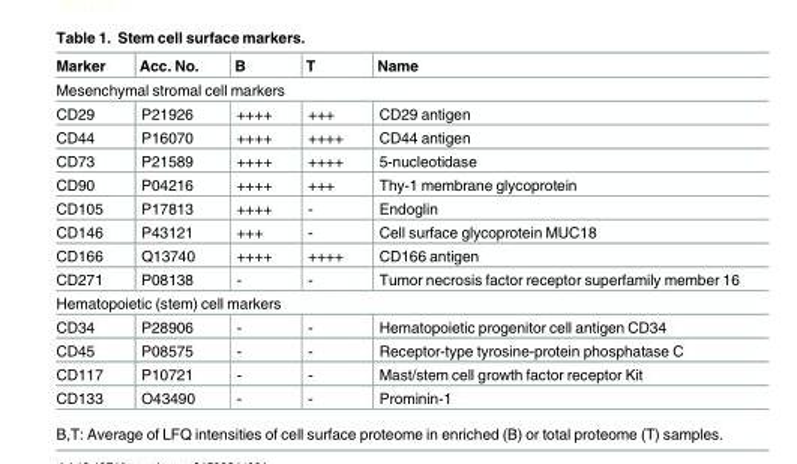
<table><thead><tr><td>Marker</td><td>Acc. No.</td><td>B</td><td>T</td><td>Name</td></tr></thead><tbody><tr><td colspan="5">Mesenchymal stromal cell markers</td></tr><tr><td>CD29</td><td>P21926</td><td>++++</td><td>+++</td><td>CD29 antigen</td></tr><tr><td>CD44</td><td>P16070</td><td>++++</td><td>++++</td><td>CD44 antigen</td></tr><tr><td>CD73</td><td>P21589</td><td>++++</td><td>++++</td><td>5-nucleotidase</td></tr><tr><td>CD90</td><td>P04216</td><td>++++</td><td>+++</td><td>Thy-1 membrane glycoprotein</td></tr><tr><td>CD105</td><td>P17813</td><td>++++</td><td>-</td><td>Endoglin</td></tr><tr><td>CD146</td><td>P43121</td><td>+++</td><td>-</td><td>Cell surface glycoprotein MUC18</td></tr><tr><td>CD166</td><td>Q13740</td><td>++++</td><td>++++</td><td>CD166 antigen</td></tr><tr><td>CD271</td><td>P08138</td><td>-</td><td>-</td><td>Tumor necrosis factor receptor superfamily member 16</td></tr><tr><td colspan="5">Hematopoietic (stem) cell markers</td></tr><tr><td>CD34</td><td>P28906</td><td>-</td><td>-</td><td>Hematopoietic progenitor cell antigen CD34</td></tr><tr><td>CD45</td><td>P08575</td><td>-</td><td>-</td><td>Receptor-type tyrosine-protein phosphatase C</td></tr><tr><td>CD117</td><td>P10721</td><td>-</td><td>-</td><td>Mast/stem cell growth factor receptor Kit</td></tr><tr><td>CD133</td><td>O43490</td><td>-</td><td>-</td><td>Prominin-1</td></tr></tbody></table>